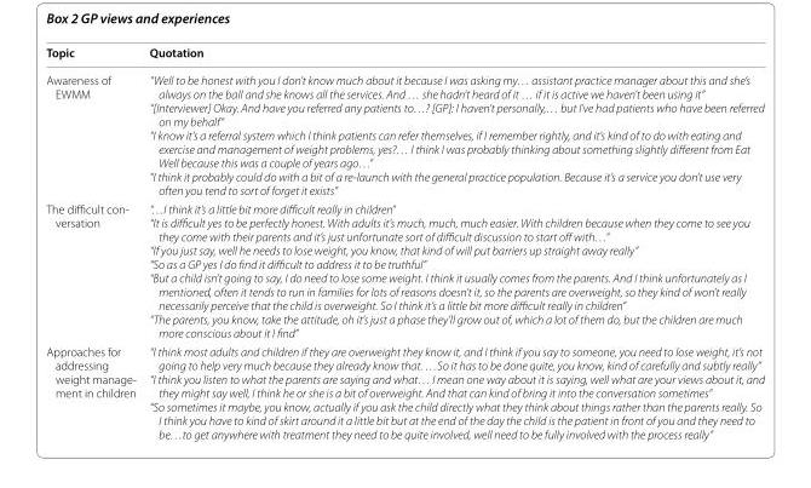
<table><thead><tr><td>Topic</td><td>Quotation</td></tr></thead><tbody><tr><td>Awareness of EWMM</td><td>“Well to be honest with you I don’t know much about it because I was asking my… assistant practice manager about this and she’s always on the ball and she knows all the services. And … she hadn’t heard of it … if it is active we haven’t been using it” “[Interviewer] Okay. And have you referred any patients to…? [GP]: I haven’t personally,… but I’ve had patients who have been referred on my behalf” “I know it’s a referral system which I think patients can refer themselves, if I remember rightly, and it’s kind of to do with eating and exercise and management of weight problems, yes?… I think I was probably thinking about something slightly different from Eat Well because this was a couple of years ago…” “I think it probably could do with a bit of a re-launch with the general practice population. Because it’s a service you don’t use very often you tend to sort of forget it exists”</td></tr><tr><td>The difficult con- versation</td><td>“…I think it’s a little bit more difficult really in children” “It is difficult yes to be perfectly honest. With adults it’s much, much, much easier. With children because when they come to see you they come with their parents and it’s just unfortunate sort of difficult discussion to start off with…” “If you just say, well he needs to lose weight, you know, that kind of will put barriers up straight away really” “So as a GP yes I do find it difficult to address it to be truthful” “But a child isn’t going to say, I do need to lose some weight. I think it usually comes from the parents. And I think unfortunately as I mentioned, often it tends to run in families for lots of reasons doesn’t it, so the parents are overweight, so they kind of won’t really necessarily perceive that the child is overweight. So I think it’s a little bit more difficult really in children” “The parents, you know, take the attitude, oh it’s just a phase they’ll grow out of, which a lot of them do, but the children are much more conscious about it I find”</td></tr><tr><td>Approaches for addressing weight manage- ment in children</td><td>“I think most adults and children if they are overweight they know it, and I think if you say to someone, you need to lose weight, it’s not going to help very much because they already know that. …So it has to be done quite, you know, kind of carefully and subtly really” “I think you listen to what the parents are saying and what… I mean one way about it is saying, well what are your views about it, and they might say well, I think he or she is a bit of overweight. And that can kind of bring it into the conversation sometimes” “So sometimes it maybe, you know, actually if you ask the child directly what they think about things rather than the parents really. So I think you have to kind of skirt around it a little bit but at the end of the day the child is the patient in front of you and they need to be…to get anywhere with treatment they need to be quite involved, well need to be fully involved with the process really”</td></tr></tbody></table>